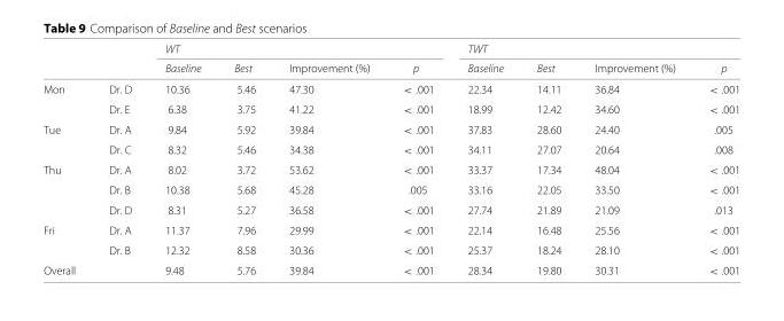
<table><thead><tr><td rowspan="2"></td><td rowspan="2"></td><td colspan="4">WT</td><td colspan="4">TWT</td></tr><tr><td>Baseline</td><td>Best</td><td>Improvement (%)</td><td>p</td><td>Baseline</td><td>Best</td><td>Improvement (%)</td><td>p</td></tr></thead><tbody><tr><td rowspan="2">Mon</td><td>Dr. D</td><td>10.36</td><td>5.46</td><td>47.30</td><td>&lt; .001</td><td>22.34</td><td>14.11</td><td>36.84</td><td>&lt; .001</td></tr><tr><td>Dr. E</td><td>6.38</td><td>3.75</td><td>41.22</td><td>&lt; .001</td><td>18.99</td><td>12.42</td><td>34.60</td><td>&lt; .001</td></tr><tr><td rowspan="2">Tue</td><td>Dr. A</td><td>9.84</td><td>5.92</td><td>39.84</td><td>&lt; .001</td><td>37.83</td><td>28.60</td><td>24.40</td><td>.005</td></tr><tr><td>Dr. C</td><td>8.32</td><td>5.46</td><td>34.38</td><td>&lt; .001</td><td>34.11</td><td>27.07</td><td>20.64</td><td>.008</td></tr><tr><td rowspan="3">Thu</td><td>Dr. A</td><td>8.02</td><td>3.72</td><td>53.62</td><td>&lt; .001</td><td>33.37</td><td>17.34</td><td>48.04</td><td>&lt; .001</td></tr><tr><td>Dr. B</td><td>10.38</td><td>5.68</td><td>45.28</td><td>.005</td><td>33.16</td><td>22.05</td><td>33.50</td><td>&lt; .001</td></tr><tr><td>Dr. D</td><td>8.31</td><td>5.27</td><td>36.58</td><td>&lt; .001</td><td>27.74</td><td>21.89</td><td>21.09</td><td>.013</td></tr><tr><td rowspan="2">Fri</td><td>Dr. A</td><td>11.37</td><td>7.96</td><td>29.99</td><td>&lt; .001</td><td>22.14</td><td>16.48</td><td>25.56</td><td>&lt; .001</td></tr><tr><td>Dr. B</td><td>12.32</td><td>8.58</td><td>30.36</td><td>&lt; .001</td><td>25.37</td><td>18.24</td><td>28.10</td><td>&lt; .001</td></tr><tr><td>Overall</td><td></td><td>9.48</td><td>5.76</td><td>39.84</td><td>&lt; .001</td><td>28.34</td><td>19.80</td><td>30.31</td><td>&lt; .001</td></tr></tbody></table>